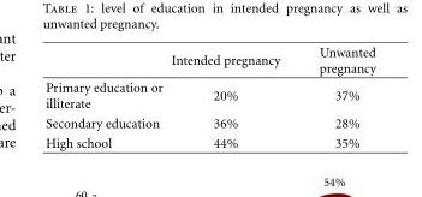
<table><thead><tr><td></td><td>Intended pregnancy</td><td>Unwanted pregnancy</td></tr></thead><tbody><tr><td>Primary education or illiterate</td><td>20%</td><td>37%</td></tr><tr><td>Secondary education</td><td>36%</td><td>28%</td></tr><tr><td>High school</td><td>44%</td><td>35%</td></tr></tbody></table>